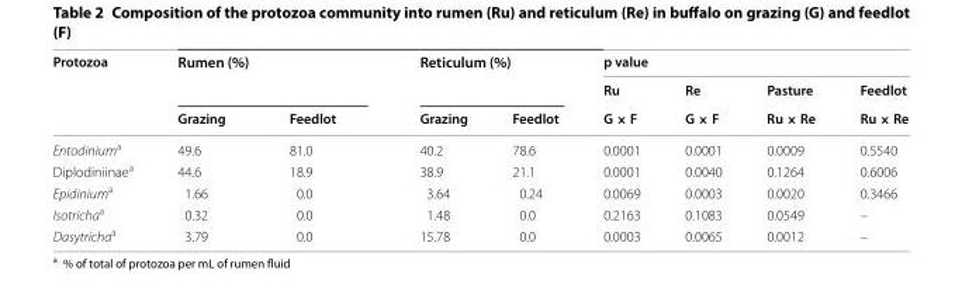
<table><thead><tr><td rowspan="3">Protozoa</td><td rowspan="2" colspan="2">Rumen (%)</td><td rowspan="2" colspan="2">Reticulum (%)</td><td colspan="4">p value</td></tr><tr><td rowspan="2">Ru G × F</td><td rowspan="2">Re G × F</td><td rowspan="2">Pasture Ru × Re</td><td rowspan="2">Feedlot Ru × Re</td></tr><tr><td>Grazing</td><td>Feedlot</td><td>Grazing</td><td>Feedlot</td></tr></thead><tbody><tr><td>Entodinium<sup>a</sup></td><td>49.6</td><td>81.0</td><td>40.2</td><td>78.6</td><td>0.0001</td><td>0.0001</td><td>0.0009</td><td>0.5540</td></tr><tr><td>Diplodiniinae<sup>a</sup></td><td>44.6</td><td>18.9</td><td>38.9</td><td>21.1</td><td>0.0001</td><td>0.0040</td><td>0.1264</td><td>0.6006</td></tr><tr><td>Epidinium<sup>a</sup></td><td>1.66</td><td>0.0</td><td>3.64</td><td>0.24</td><td>0.0069</td><td>0.0003</td><td>0.0020</td><td>0.3466</td></tr><tr><td>Isotricha<sup>a</sup></td><td>0.32</td><td>0.0</td><td>1.48</td><td>0.0</td><td>0.2163</td><td>0.1083</td><td>0.0549</td><td>–</td></tr><tr><td>Dasytricha<sup>a</sup></td><td>3.79</td><td>0.0</td><td>15.78</td><td>0.0</td><td>0.0003</td><td>0.0065</td><td>0.0012</td><td>–</td></tr></tbody></table>